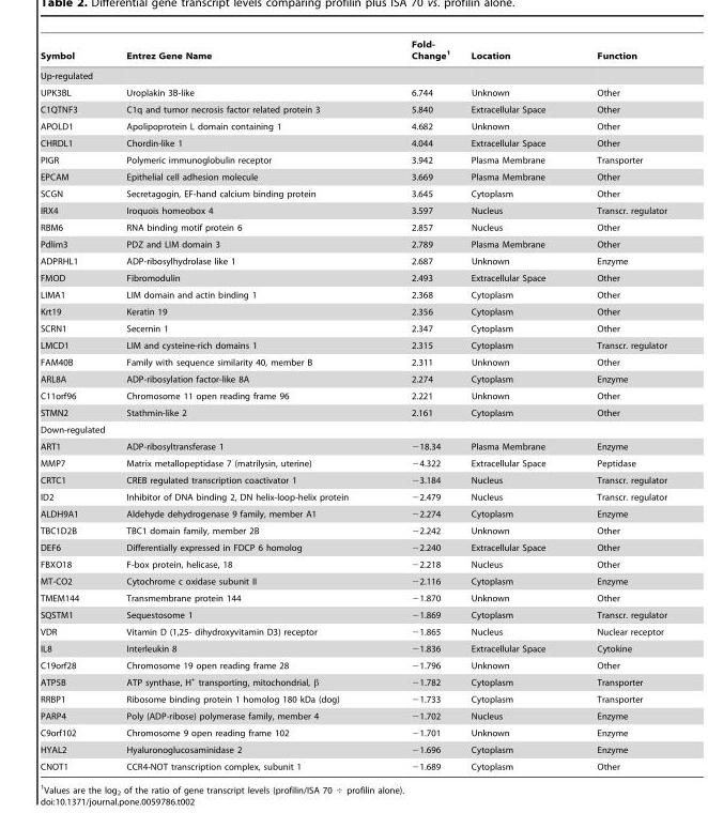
<table><thead><tr><td>Symbol</td><td>Entrez Gene Name</td><td>Fold- Change<sup>1</sup></td><td>Location</td><td>Function</td></tr></thead><tbody><tr><td colspan="5">Up-regulated</td></tr><tr><td>UPK3BL</td><td>Uroplakin 3B-like</td><td>6.744</td><td>Unknown</td><td>Other</td></tr><tr><td>C1QTNF3</td><td>C1q and tumor necrosis factor related protein 3</td><td>5.840</td><td>Extracellular Space</td><td>Other</td></tr><tr><td>APOLD1</td><td>Apolipoprotein L domain containing 1</td><td>4.682</td><td>Unknown</td><td>Other</td></tr><tr><td>CHRDL1</td><td>Chordin-like 1</td><td>4.044</td><td>Extracellular Space</td><td>Other</td></tr><tr><td>PIGR</td><td>Polymeric immunoglobulin receptor</td><td>3.942</td><td>Plasma Membrane</td><td>Transporter</td></tr><tr><td>EPCAM</td><td>Epithelial cell adhesion molecule</td><td>3.669</td><td>Plasma Membrane</td><td>Other</td></tr><tr><td>SCGN</td><td>Secretagogin, EF-hand calcium binding protein</td><td>3.645</td><td>Cytoplasm</td><td>Other</td></tr><tr><td>IRX4</td><td>Iroquois homeobox 4</td><td>3.597</td><td>Nucleus</td><td>Transcr. regulator</td></tr><tr><td>RBM6</td><td>RNA binding motif protein 6</td><td>2.857</td><td>Nucleus</td><td>Other</td></tr><tr><td>Pdlim3</td><td>PDZ and LIM domain 3</td><td>2.789</td><td>Plasma Membrane</td><td>Other</td></tr><tr><td>ADPRHL1</td><td>ADP-ribosylhydrolase like 1</td><td>2.687</td><td>Unknown</td><td>Enzyme</td></tr><tr><td>FMOD</td><td>Fibromodulin</td><td>2.493</td><td>Extracellular Space</td><td>Other</td></tr><tr><td>LIMA1</td><td>LIM domain and actin binding 1</td><td>2.368</td><td>Cytoplasm</td><td>Other</td></tr><tr><td>Krt19</td><td>Keratin 19</td><td>2.356</td><td>Cytoplasm</td><td>Other</td></tr><tr><td>SCRN1</td><td>Secernin 1</td><td>2.347</td><td>Cytoplasm</td><td>Other</td></tr><tr><td>LMCD1</td><td>LIM and cysteine-rich domains 1</td><td>2.315</td><td>Cytoplasm</td><td>Transcr. regulator</td></tr><tr><td>FAM40B</td><td>Family with sequence similarity 40, member B</td><td>2.311</td><td>Unknown</td><td>Other</td></tr><tr><td>ARL8A</td><td>ADP-ribosylation factor-like 8A</td><td>2.274</td><td>Cytoplasm</td><td>Enzyme</td></tr><tr><td>C11orf96</td><td>Chromosome 11 open reading frame 96</td><td>2.221</td><td>Unknown</td><td>Other</td></tr><tr><td>STMN2</td><td>Stathmin-like 2</td><td>2.161</td><td>Cytoplasm</td><td>Other</td></tr><tr><td colspan="5">Down-regulated</td></tr><tr><td>ART1</td><td>ADP-ribosyltransferase 1</td><td>−18.34</td><td>Plasma Membrane</td><td>Enzyme</td></tr><tr><td>MMP7</td><td>Matrix metallopeptidase 7 (matrilysin, uterine)</td><td>−4.322</td><td>Extracellular Space</td><td>Peptidase</td></tr><tr><td>CRTC1</td><td>CREB regulated transcription coactivator 1</td><td>−3.184</td><td>Nucleus</td><td>Transcr. regulator</td></tr><tr><td>ID2</td><td>Inhibitor of DNA binding 2, DN helix-loop-helix protein</td><td>−2.479</td><td>Nucleus</td><td>Transcr. regulator</td></tr><tr><td>ALDH9A1</td><td>Aldehyde dehydrogenase 9 family, member A1</td><td>−2.274</td><td>Cytoplasm</td><td>Enzyme</td></tr><tr><td>TBC1D2B</td><td>TBC1 domain family, member 2B</td><td>−2.242</td><td>Unknown</td><td>Other</td></tr><tr><td>DEF6</td><td>Differentially expressed in FDCP 6 homolog</td><td>−2.240</td><td>Extracellular Space</td><td>Other</td></tr><tr><td>FBXO18</td><td>F-box protein, helicase, 18</td><td>−2.218</td><td>Nucleus</td><td>Other</td></tr><tr><td>MT-CO2</td><td>Cytochrome c oxidase subunit II</td><td>−2.116</td><td>Cytoplasm</td><td>Enzyme</td></tr><tr><td>TMEM144</td><td>Transmembrane protein 144</td><td>−1.870</td><td>Unknown</td><td>Other</td></tr><tr><td>SQSTM1</td><td>Sequestosome 1</td><td>−1.869</td><td>Cytoplasm</td><td>Transcr. regulator</td></tr><tr><td>VDR</td><td>Vitamin D (1,25- dihydroxyvitamin D3) receptor</td><td>−1.865</td><td>Nucleus</td><td>Nuclear receptor</td></tr><tr><td>IL8</td><td>Interleukin 8</td><td>−1.836</td><td>Extracellular Space</td><td>Cytokine</td></tr><tr><td>C19orf28</td><td>Chromosome 19 open reading frame 28</td><td>−1.796</td><td>Unknown</td><td>Other</td></tr><tr><td>ATP5B</td><td>ATP synthase, H<sup>+</sup> transporting, mitochondrial, β</td><td>−1.782</td><td>Cytoplasm</td><td>Transporter</td></tr><tr><td>RRBP1</td><td>Ribosome binding protein 1 homolog 180 kDa (dog)</td><td>−1.733</td><td>Cytoplasm</td><td>Transporter</td></tr><tr><td>PARP4</td><td>Poly (ADP-ribose) polymerase family, member 4</td><td>−1.702</td><td>Nucleus</td><td>Enzyme</td></tr><tr><td>C9orf102</td><td>Chromosome 9 open reading frame 102</td><td>−1.701</td><td>Unknown</td><td>Enzyme</td></tr><tr><td>HYAL2</td><td>Hyaluronoglucosaminidase 2</td><td>−1.696</td><td>Cytoplasm</td><td>Enzyme</td></tr><tr><td>CNOT1</td><td>CCR4-NOT transcription complex, subunit 1</td><td>−1.689</td><td>Cytoplasm</td><td>Other</td></tr></tbody></table>